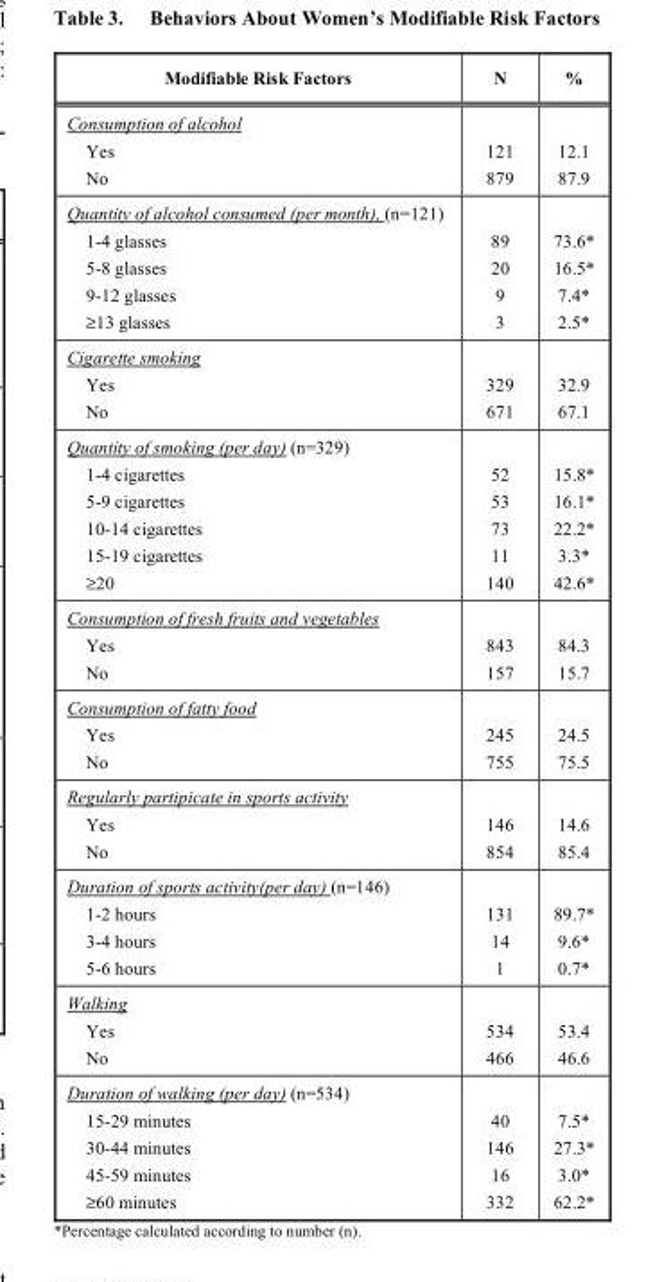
<table><thead><tr><td>Modifiable Risk Factors</td><td>N</td><td>%</td></tr></thead><tbody><tr><td>Consumption of alcohol Yes No</td><td>121 879</td><td>12.1 87.9</td></tr><tr><td>Quantity of alcohol consumed (per month), (n=121) 1-4 glasses 5-8 glasses 9-12 glasses ≥13 glasses</td><td>89 20 9 3</td><td>73.6* 16.5* 7.4* 2.5*</td></tr><tr><td>Cigarette smoking Yes No</td><td>329 671</td><td>32.9 67.1</td></tr><tr><td>Quantity of smoking (per day) (n=329) 1-4 cigarettes 5-9 cigarettes 10-14 cigarettes 15-19 cigarettes ≥20</td><td>52 53 73 11 140</td><td>15.8* 16.1* 22.2* 3.3* 42.6*</td></tr><tr><td>Consumption of fresh fruits and vegetables Yes No</td><td>843 157</td><td>84.3 15.7</td></tr><tr><td>Consumption of fatty food Yes No</td><td>245 755</td><td>24.5 75.5</td></tr><tr><td>Regularly partipicate in sports activity Yes No</td><td>146 854</td><td>14.6 85.4</td></tr><tr><td>Duration of sports activity(per day) (n=146) 1-2 hours 3-4 hours 5-6 hours</td><td>131 14 1</td><td>89.7* 9.6* 0.7*</td></tr><tr><td>Walking Yes No</td><td>534 466</td><td>53.4 46.6</td></tr><tr><td>Duration of walking (per day) (n=534) 15-29 minutes 30-44 minutes 45-59 minutes ≥60 minutes</td><td>40 146 16 332</td><td>7.5* 27.3* 3.0* 62.2*</td></tr></tbody></table>